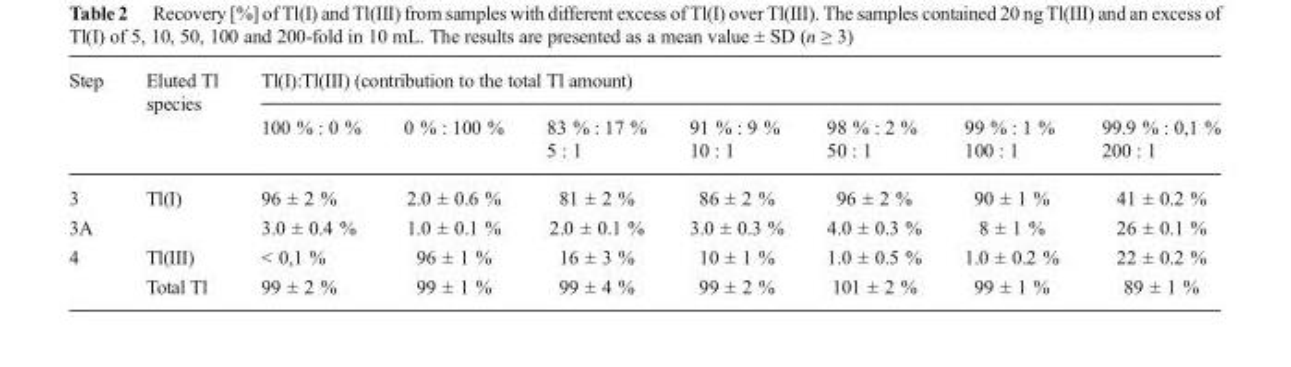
<table><thead><tr><td rowspan="3">Step</td><td rowspan="3">Eluted Tl species</td><td colspan="7">Tl(I):Tl(III) (contribution to the total Tl amount)</td></tr><tr><td rowspan="2">100 % : 0 %</td><td rowspan="2">0 % : 100 %</td><td rowspan="2">83 % : 17 % 5 : 1</td><td rowspan="2">91 % : 9 % 10 : 1</td><td rowspan="2">98 % : 2 % 50 : 1</td><td rowspan="2">99 % : 1 % 100 : 1</td><td rowspan="2">99.9 % : 0,1 % 200 : 1</td></tr><tr></tr></thead><tbody><tr><td>3</td><td rowspan="2">Tl(I)</td><td>96 ± 2 %</td><td>2.0 ± 0.6 %</td><td>81 ± 2 %</td><td>86 ± 2 %</td><td>96 ± 2 %</td><td>90 ± 1 %</td><td>41 ± 0.2 %</td></tr><tr><td>3A</td><td>3.0 ± 0.4 %</td><td>1.0 ± 0.1 %</td><td>2.0 ± 0.1 %</td><td>3.0 ± 0.3 %</td><td>4.0 ± 0.3 %</td><td>8 ± 1 %</td><td>26 ± 0.1 %</td></tr><tr><td rowspan="2">4</td><td>Tl(III)</td><td>&lt; 0,1 %</td><td>96 ± 1 %</td><td>16 ± 3 %</td><td>10 ± 1 %</td><td>1.0 ± 0.5 %</td><td>1.0 ± 0.2 %</td><td>22 ± 0.2 %</td></tr><tr><td>Total Tl</td><td>99 ± 2 %</td><td>99 ± 1 %</td><td>99 ± 4 %</td><td>99 ± 2 %</td><td>101 ± 2 %</td><td>99 ± 1 %</td><td>89 ± 1 %</td></tr></tbody></table>